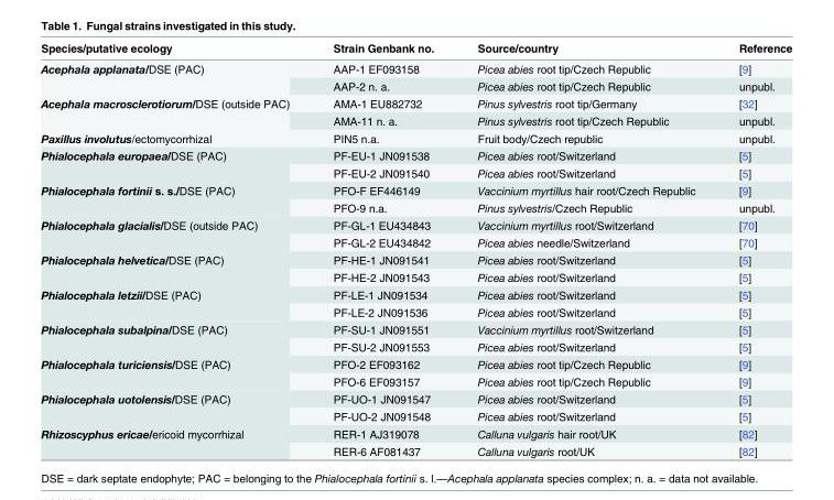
<table><thead><tr><td>Species/putative ecology</td><td>Strain Genbank no.</td><td>Source/country</td><td>Reference</td></tr></thead><tbody><tr><td rowspan="2">Acephala applanata/DSE (PAC)</td><td>AAP-1 EF093158</td><td>Picea abies root tip/Czech Republic</td><td>[9]</td></tr><tr><td>AAP-2 n. a.</td><td>Picea abies root tip/Czech Republic</td><td>unpubl.</td></tr><tr><td rowspan="2">Acephala macrosclerotiorum/DSE (outside PAC)</td><td>AMA-1 EU882732</td><td>Pinus sylvestris root tip/Germany</td><td>[32]</td></tr><tr><td>AMA-11 n. a.</td><td>Pinus sylvestris root tip/Czech Republic</td><td>unpubl.</td></tr><tr><td>Paxillus involutus/ectomycorrhizal</td><td>PIN5 n.a.</td><td>Fruit body/Czech republic</td><td>unpubl.</td></tr><tr><td rowspan="2">Phialocephala europaea/DSE (PAC)</td><td>PF-EU-1 JN091538</td><td>Picea abies root/Switzerland</td><td>[5]</td></tr><tr><td>PF-EU-2 JN091540</td><td>Picea abies root/Switzerland</td><td>[5]</td></tr><tr><td rowspan="2">Phialocephala fortinii s. s./DSE (PAC)</td><td>PFO-F EF446149</td><td>Vaccinium myrtillus hair root/Czech Republic</td><td>[9]</td></tr><tr><td>PFO-9 n.a.</td><td>Pinus sylvestris/Czech Republic</td><td>unpubl.</td></tr><tr><td rowspan="2">Phialocephala glacialis/DSE (outside PAC)</td><td>PF-GL-1 EU434843</td><td>Vaccinium myrtillus root/Switzerland</td><td>[70]</td></tr><tr><td>PF-GL-2 EU434842</td><td>Picea abies needle/Switzerland</td><td>[70]</td></tr><tr><td rowspan="2">Phialocephala helvetica/DSE (PAC)</td><td>PF-HE-1 JN091541</td><td>Picea abies root/Switzerland</td><td>[5]</td></tr><tr><td>PF-HE-2 JN091543</td><td>Picea abies root/Switzerland</td><td>[5]</td></tr><tr><td rowspan="2">Phialocephala letzii/DSE (PAC)</td><td>PF-LE-1 JN091534</td><td>Picea abies root/Switzerland</td><td>[5]</td></tr><tr><td>PF-LE-2 JN091536</td><td>Picea abies root/Switzerland</td><td>[5]</td></tr><tr><td rowspan="2">Phialocephala subalpina/DSE (PAC)</td><td>PF-SU-1 JN091551</td><td>Vaccinium myrtillus root/Switzerland</td><td>[5]</td></tr><tr><td>PF-SU-2 JN091553</td><td>Picea abies root/Switzerland</td><td>[5]</td></tr><tr><td rowspan="2">Phialocephala turiciensis/DSE (PAC)</td><td>PFO-2 EF093162</td><td>Picea abies root tip/Czech Republic</td><td>[9]</td></tr><tr><td>PFO-6 EF093157</td><td>Picea abies root tip/Czech Republic</td><td>[9]</td></tr><tr><td rowspan="2">Phialocephala uotolensis/DSE (PAC)</td><td>PF-UO-1 JN091547</td><td>Picea abies root/Switzerland</td><td>[5]</td></tr><tr><td>PF-UO-2 JN091548</td><td>Picea abies root/Switzerland</td><td>[5]</td></tr><tr><td rowspan="2">Rhizoscyphus ericae/ericoid mycorrhizal</td><td>RER-1 AJ319078</td><td>Calluna vulgaris hair root/UK</td><td>[82]</td></tr><tr><td>RER-6 AF081437</td><td>Calluna vulgaris root/UK</td><td>[82]</td></tr></tbody></table>